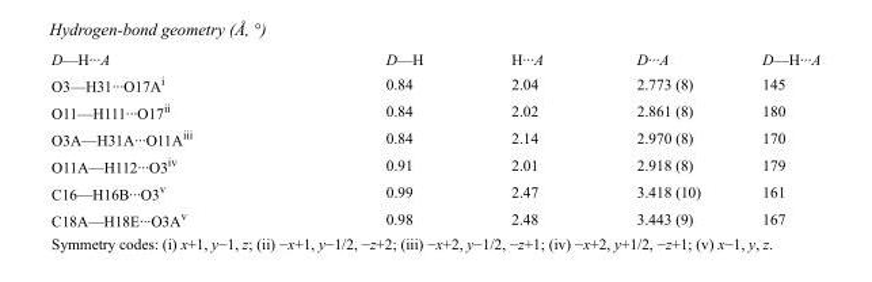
<table><tbody><tr><td>D—H···A</td><td>D—H</td><td>H···A</td><td>D···A</td><td>D—H···A</td></tr><tr><td>O3—H31···O17A<sup>i</sup></td><td>0.84</td><td>2.04</td><td>2.773 (8)</td><td>145</td></tr><tr><td>O11—H111···O17<sup>ii</sup></td><td>0.84</td><td>2.02</td><td>2.861 (8)</td><td>180</td></tr><tr><td>O3A—H31A···O11A<sup>iii</sup></td><td>0.84</td><td>2.14</td><td>2.970 (8)</td><td>170</td></tr><tr><td>O11A—H112···O3<sup>iv</sup></td><td>0.91</td><td>2.01</td><td>2.918 (8)</td><td>179</td></tr><tr><td>C16—H16B···O3<sup>v</sup></td><td>0.99</td><td>2.47</td><td>3.418 (10)</td><td>161</td></tr><tr><td>C18A—H18E···O3A<sup>v</sup></td><td>0.98</td><td>2.48</td><td>3.443 (9)</td><td>167</td></tr></tbody></table>